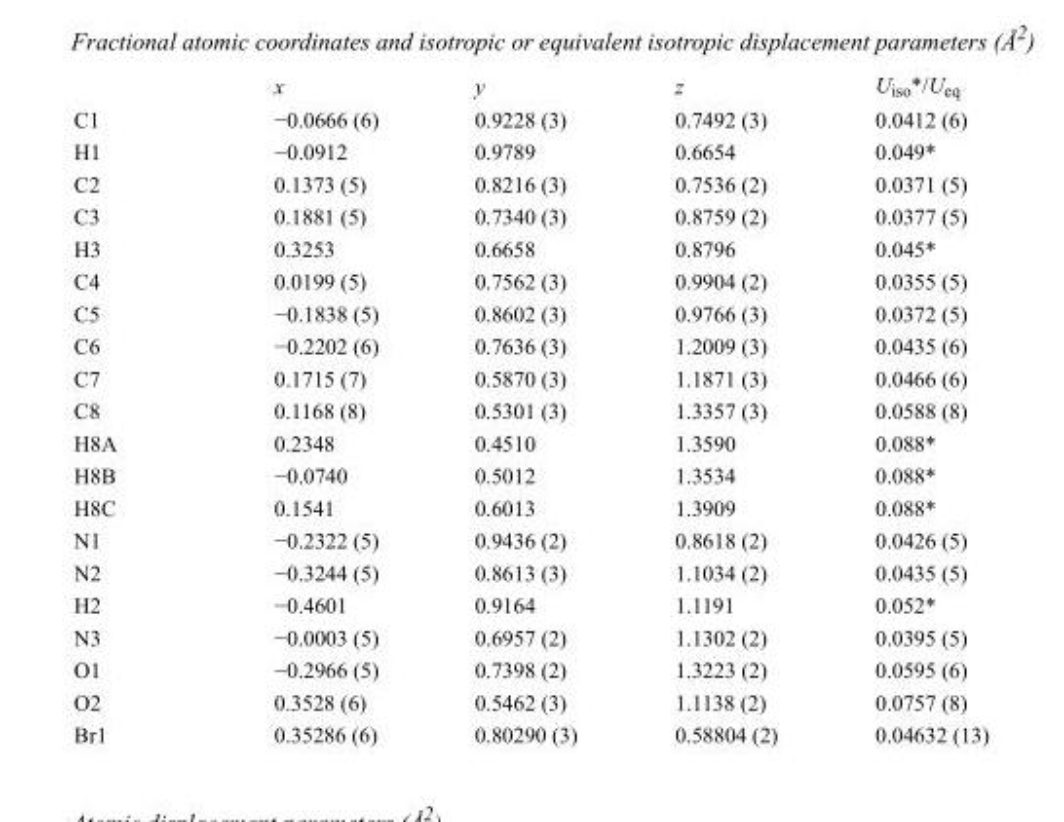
<table><thead><tr><td></td><td>x</td><td>y</td><td>z</td><td>U<sub>iso</sub>*/U<sub>eq</sub></td></tr></thead><tbody><tr><td>C1</td><td>−0.0666 (6)</td><td>0.9228 (3)</td><td>0.7492 (3)</td><td>0.0412 (6)</td></tr><tr><td>H1</td><td>−0.0912</td><td>0.9789</td><td>0.6654</td><td>0.049*</td></tr><tr><td>C2</td><td>0.1373 (5)</td><td>0.8216 (3)</td><td>0.7536 (2)</td><td>0.0371 (5)</td></tr><tr><td>C3</td><td>0.1881 (5)</td><td>0.7340 (3)</td><td>0.8759 (2)</td><td>0.0377 (5)</td></tr><tr><td>H3</td><td>0.3253</td><td>0.6658</td><td>0.8796</td><td>0.045*</td></tr><tr><td>C4</td><td>0.0199 (5)</td><td>0.7562 (3)</td><td>0.9904 (2)</td><td>0.0355 (5)</td></tr><tr><td>C5</td><td>−0.1838 (5)</td><td>0.8602 (3)</td><td>0.9766 (3)</td><td>0.0372 (5)</td></tr><tr><td>C6</td><td>−0.2202 (6)</td><td>0.7636 (3)</td><td>1.2009 (3)</td><td>0.0435 (6)</td></tr><tr><td>C7</td><td>0.1715 (7)</td><td>0.5870 (3)</td><td>1.1871 (3)</td><td>0.0466 (6)</td></tr><tr><td>C8</td><td>0.1168 (8)</td><td>0.5301 (3)</td><td>1.3357 (3)</td><td>0.0588 (8)</td></tr><tr><td>H8A</td><td>0.2348</td><td>0.4510</td><td>1.3590</td><td>0.088*</td></tr><tr><td>H8B</td><td>−0.0740</td><td>0.5012</td><td>1.3534</td><td>0.088*</td></tr><tr><td>H8C</td><td>0.1541</td><td>0.6013</td><td>1.3909</td><td>0.088*</td></tr><tr><td>N1</td><td>−0.2322 (5)</td><td>0.9436 (2)</td><td>0.8618 (2)</td><td>0.0426 (5)</td></tr><tr><td>N2</td><td>−0.3244 (5)</td><td>0.8613 (3)</td><td>1.1034 (2)</td><td>0.0435 (5)</td></tr><tr><td>H2</td><td>−0.4601</td><td>0.9164</td><td>1.1191</td><td>0.052*</td></tr><tr><td>N3</td><td>−0.0003 (5)</td><td>0.6957 (2)</td><td>1.1302 (2)</td><td>0.0395 (5)</td></tr><tr><td>O1</td><td>−0.2966 (5)</td><td>0.7398 (2)</td><td>1.3223 (2)</td><td>0.0595 (6)</td></tr><tr><td>O2</td><td>0.3528 (6)</td><td>0.5462 (3)</td><td>1.1138 (2)</td><td>0.0757 (8)</td></tr><tr><td>Br1</td><td>0.35286 (6)</td><td>0.80290 (3)</td><td>0.58804 (2)</td><td>0.04632 (13)</td></tr></tbody></table>